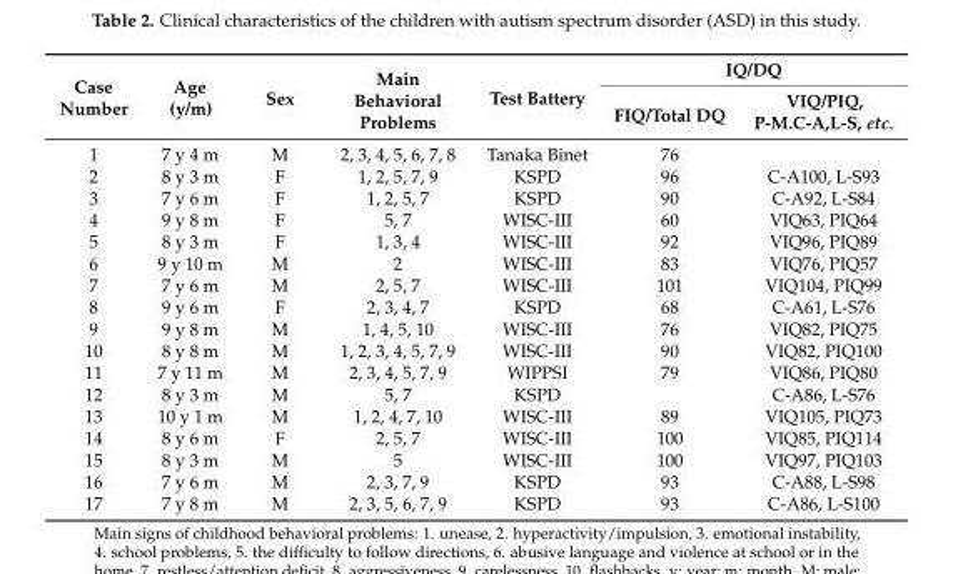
<table><thead><tr><td rowspan="2">Case Number</td><td rowspan="2">Age (y/m)</td><td rowspan="2">Sex</td><td rowspan="2">Main Behavioral Problems</td><td rowspan="2">Test Battery</td><td colspan="2">IQ/DQ</td></tr><tr><td>FIQ/Total DQ</td><td>VIQ/PIQ, P-M.C-A,L-S, etc.</td></tr></thead><tbody><tr><td>1</td><td>7 y 4 m</td><td>M</td><td>2, 3, 4, 5, 6, 7, 8</td><td>Tanaka Binet</td><td>76</td><td></td></tr><tr><td>2</td><td>8 y 3 m</td><td>F</td><td>1, 2, 5, 7, 9</td><td>KSPD</td><td>96</td><td>C-A100, L-S93</td></tr><tr><td>3</td><td>7 y 6 m</td><td>F</td><td>1, 2, 5, 7</td><td>KSPD</td><td>90</td><td>C-A92, L-S84</td></tr><tr><td>4</td><td>9 y 8 m</td><td>F</td><td>5, 7</td><td>WISC-III</td><td>60</td><td>VIQ63, PIQ64</td></tr><tr><td>5</td><td>8 y 3 m</td><td>F</td><td>1, 3, 4</td><td>WISC-III</td><td>92</td><td>VIQ96, PIQ89</td></tr><tr><td>6</td><td>9 y 10 m</td><td>M</td><td>2</td><td>WISC-III</td><td>83</td><td>VIQ76, PIQ57</td></tr><tr><td>7</td><td>7 y 6 m</td><td>M</td><td>2, 5, 7</td><td>WISC-III</td><td>101</td><td>VIQ104, PIQ99</td></tr><tr><td>8</td><td>9 y 6 m</td><td>F</td><td>2, 3, 4, 7</td><td>KSPD</td><td>68</td><td>C-A61, L-S76</td></tr><tr><td>9</td><td>9 y 8 m</td><td>M</td><td>1, 4, 5, 10</td><td>WISC-III</td><td>76</td><td>VIQ82, PIQ75</td></tr><tr><td>10</td><td>8 y 8 m</td><td>M</td><td>1, 2, 3, 4, 5, 7, 9</td><td>WISC-III</td><td>90</td><td>VIQ82, PIQ100</td></tr><tr><td>11</td><td>7 y 11 m</td><td>M</td><td>2, 3, 4, 5, 7, 9</td><td>WIPPSI</td><td>79</td><td>VIQ86, PIQ80</td></tr><tr><td>12</td><td>8 y 3 m</td><td>M</td><td>5, 7</td><td>KSPD</td><td></td><td>C-A86, L-S76</td></tr><tr><td>13</td><td>10 y 1 m</td><td>M</td><td>1, 2, 4, 7, 10</td><td>WISC-III</td><td>89</td><td>VIQ105, PIQ73</td></tr><tr><td>14</td><td>8 y 6 m</td><td>F</td><td>2, 5, 7</td><td>WISC-III</td><td>100</td><td>VIQ85, PIQ114</td></tr><tr><td>15</td><td>8 y 3 m</td><td>M</td><td>5</td><td>WISC-III</td><td>100</td><td>VIQ97, PIQ103</td></tr><tr><td>16</td><td>7 y 6 m</td><td>M</td><td>2, 3, 7, 9</td><td>KSPD</td><td>93</td><td>C-A88, L-S98</td></tr><tr><td>17</td><td>7 y 8 m</td><td>M</td><td>2, 3, 5, 6, 7, 9</td><td>KSPD</td><td>93</td><td>C-A86, L-S100</td></tr></tbody></table>